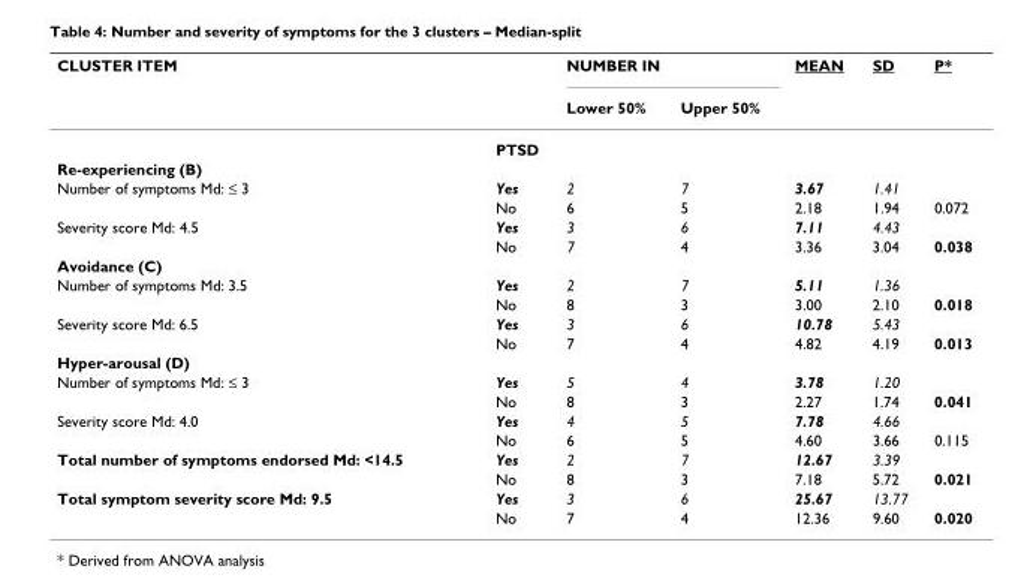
<table><thead><tr><td colspan="2">CLUSTER ITEM</td><td colspan="2">NUMBER IN</td><td rowspan="2">MEAN</td><td rowspan="2">SD</td><td rowspan="2">P*</td></tr><tr><td></td><td></td><td>Lower 50%</td><td>Upper 50%</td></tr></thead><tbody><tr><td></td><td>PTSD</td><td></td><td></td><td></td><td></td><td></td></tr><tr><td colspan="7">Re-experiencing (B)</td></tr><tr><td rowspan="2">Number of symptoms Md: ≤ 3</td><td>Yes</td><td>2</td><td>7</td><td>3.67</td><td>1.41</td><td></td></tr><tr><td>No</td><td>6</td><td>5</td><td>2.18</td><td>1.94</td><td>0.072</td></tr><tr><td rowspan="2">Severity score Md: 4.5</td><td>Yes</td><td>3</td><td>6</td><td>7.11</td><td>4.43</td><td></td></tr><tr><td>No</td><td>7</td><td>4</td><td>3.36</td><td>3.04</td><td>0.038</td></tr><tr><td colspan="7">Avoidance (C)</td></tr><tr><td rowspan="2">Number of symptoms Md: 3.5</td><td>Yes</td><td>2</td><td>7</td><td>5.11</td><td>1.36</td><td></td></tr><tr><td>No</td><td>8</td><td>3</td><td>3.00</td><td>2.10</td><td>0.018</td></tr><tr><td rowspan="2">Severity score Md: 6.5</td><td>Yes</td><td>3</td><td>6</td><td>10.78</td><td>5.43</td><td></td></tr><tr><td>No</td><td>7</td><td>4</td><td>4.82</td><td>4.19</td><td>0.013</td></tr><tr><td colspan="7">Hyper-arousal (D)</td></tr><tr><td rowspan="2">Number of symptoms Md: ≤ 3</td><td>Yes</td><td>5</td><td>4</td><td>3.78</td><td>1.20</td><td></td></tr><tr><td>No</td><td>8</td><td>3</td><td>2.27</td><td>1.74</td><td>0.041</td></tr><tr><td rowspan="2">Severity score Md: 4.0</td><td>Yes</td><td>4</td><td>5</td><td>7.78</td><td>4.66</td><td></td></tr><tr><td>No</td><td>6</td><td>5</td><td>4.60</td><td>3.66</td><td>0.115</td></tr><tr><td rowspan="2">Total number of symptoms endorsed Md: &lt;14.5</td><td>Yes</td><td>2</td><td>7</td><td>12.67</td><td>3.39</td><td></td></tr><tr><td>No</td><td>8</td><td>3</td><td>7.18</td><td>5.72</td><td>0.021</td></tr><tr><td rowspan="2">Total symptom severity score Md: 9.5</td><td>Yes</td><td>3</td><td>6</td><td>25.67</td><td>13.77</td><td></td></tr><tr><td>No</td><td>7</td><td>4</td><td>12.36</td><td>9.60</td><td>0.020</td></tr></tbody></table>